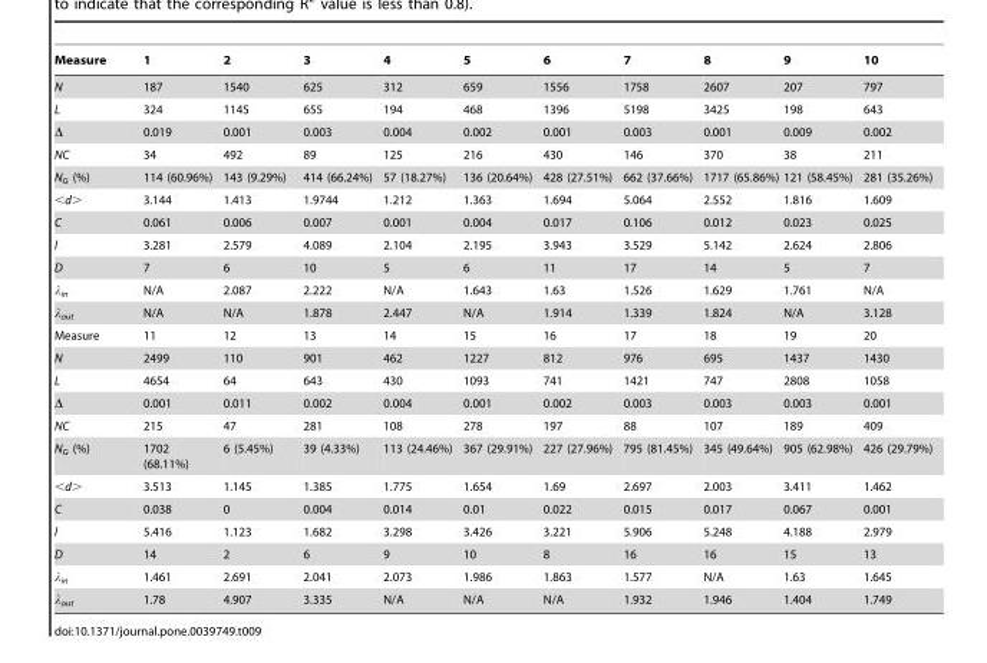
<table><thead><tr><td>Measure</td><td>1</td><td>2</td><td>3</td><td>4</td><td>5</td><td>6</td><td>7</td><td>8</td><td>9</td><td>10</td></tr></thead><tbody><tr><td>N</td><td>187</td><td>1540</td><td>625</td><td>312</td><td>659</td><td>1556</td><td>1758</td><td>2607</td><td>207</td><td>797</td></tr><tr><td>L</td><td>324</td><td>1145</td><td>655</td><td>194</td><td>468</td><td>1396</td><td>5198</td><td>3425</td><td>198</td><td>643</td></tr><tr><td>Δ</td><td>0.019</td><td>0.001</td><td>0.003</td><td>0.004</td><td>0.002</td><td>0.001</td><td>0.003</td><td>0.001</td><td>0.009</td><td>0.002</td></tr><tr><td>NC</td><td>34</td><td>492</td><td>89</td><td>125</td><td>216</td><td>430</td><td>146</td><td>370</td><td>38</td><td>211</td></tr><tr><td>N<sub>G</sub> (%)</td><td>114 (60.96%)</td><td>143 (9.29%)</td><td>414 (66.24%)</td><td>57 (18.27%)</td><td>136 (20.64%)</td><td>428 (27.51%)</td><td>662 (37.66%)</td><td>1717 (65.86%)</td><td>121 (58.45%)</td><td>281 (35.26%)</td></tr><tr><td>&lt;d&gt;</td><td>3.144</td><td>1.413</td><td>1.9744</td><td>1.212</td><td>1.363</td><td>1.694</td><td>5.064</td><td>2.552</td><td>1.816</td><td>1.609</td></tr><tr><td>C</td><td>0.061</td><td>0.006</td><td>0.007</td><td>0.001</td><td>0.004</td><td>0.017</td><td>0.106</td><td>0.012</td><td>0.023</td><td>0.025</td></tr><tr><td>l</td><td>3.281</td><td>2.579</td><td>4.089</td><td>2.104</td><td>2.195</td><td>3.943</td><td>3.529</td><td>5.142</td><td>2.624</td><td>2.806</td></tr><tr><td>D</td><td>7</td><td>6</td><td>10</td><td>5</td><td>6</td><td>11</td><td>17</td><td>14</td><td>5</td><td>7</td></tr><tr><td>λ<sub>in</sub></td><td>N/A</td><td>2.087</td><td>2.222</td><td>N/A</td><td>1.643</td><td>1.63</td><td>1.526</td><td>1.629</td><td>1.761</td><td>N/A</td></tr><tr><td>λ<sub>out</sub></td><td>N/A</td><td>N/A</td><td>1.878</td><td>2.447</td><td>N/A</td><td>1.914</td><td>1.339</td><td>1.824</td><td>N/A</td><td>3.128</td></tr><tr><td>Measure</td><td>11</td><td>12</td><td>13</td><td>14</td><td>15</td><td>16</td><td>17</td><td>18</td><td>19</td><td>20</td></tr><tr><td>N</td><td>2499</td><td>110</td><td>901</td><td>462</td><td>1227</td><td>812</td><td>976</td><td>695</td><td>1437</td><td>1430</td></tr><tr><td>L</td><td>4654</td><td>64</td><td>643</td><td>430</td><td>1093</td><td>741</td><td>1421</td><td>747</td><td>2808</td><td>1058</td></tr><tr><td>Δ</td><td>0.001</td><td>0.011</td><td>0.002</td><td>0.004</td><td>0.001</td><td>0.002</td><td>0.003</td><td>0.003</td><td>0.003</td><td>0.001</td></tr><tr><td>NC</td><td>215</td><td>47</td><td>281</td><td>108</td><td>278</td><td>197</td><td>88</td><td>107</td><td>189</td><td>409</td></tr><tr><td>N<sub>G</sub> (%)</td><td>1702 (68.11%)</td><td>6 (5.45%)</td><td>39 (4.33%)</td><td>113 (24.46%)</td><td>367 (29.91%)</td><td>227 (27.96%)</td><td>795 (81.45%)</td><td>345 (49.64%)</td><td>905 (62.98%)</td><td>426 (29.79%)</td></tr><tr><td>&lt;d&gt;</td><td>3.513</td><td>1.145</td><td>1.385</td><td>1.775</td><td>1.654</td><td>1.69</td><td>2.697</td><td>2.003</td><td>3.411</td><td>1.462</td></tr><tr><td>C</td><td>0.038</td><td>0</td><td>0.004</td><td>0.014</td><td>0.01</td><td>0.022</td><td>0.015</td><td>0.017</td><td>0.067</td><td>0.001</td></tr><tr><td>l</td><td>5.416</td><td>1.123</td><td>1.682</td><td>3.298</td><td>3.426</td><td>3.221</td><td>5.906</td><td>5.248</td><td>4.188</td><td>2.979</td></tr><tr><td>D</td><td>14</td><td>2</td><td>6</td><td>9</td><td>10</td><td>8</td><td>16</td><td>16</td><td>15</td><td>13</td></tr><tr><td>λ<sub>in</sub></td><td>1.461</td><td>2.691</td><td>2.041</td><td>2.073</td><td>1.986</td><td>1.863</td><td>1.577</td><td>N/A</td><td>1.63</td><td>1.645</td></tr><tr><td>λ<sub>out</sub></td><td>1.78</td><td>4.907</td><td>3.335</td><td>N/A</td><td>N/A</td><td>N/A</td><td>1.932</td><td>1.946</td><td>1.404</td><td>1.749</td></tr></tbody></table>